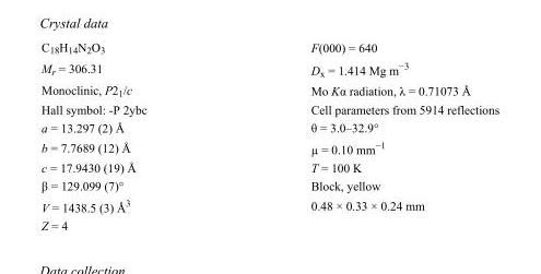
<table><tbody><tr><td>C<sub>18</sub>H<sub>14</sub>N<sub>2</sub>O<sub>3</sub></td><td>F(000) = 640</td></tr><tr><td>M<sub>r</sub> = 306.31</td><td>D<sub>x</sub> = 1.414 Mg m<sup>−3</sup></td></tr><tr><td>Monoclinic, P2<sub>1</sub>/c</td><td>Mo Kα radiation, λ = 0.71073 Å</td></tr><tr><td>Hall symbol: -P 2ybc</td><td>Cell parameters from 5914 reflections</td></tr><tr><td>a = 13.297 (2) Å</td><td>θ = 3.0–32.9°</td></tr><tr><td>b = 7.7689 (12) Å</td><td>µ = 0.10 mm<sup>−1</sup></td></tr><tr><td>c = 17.9430 (19) Å</td><td>T = 100 K</td></tr><tr><td>β = 129.099 (7)°</td><td>Block, yellow</td></tr><tr><td>V = 1438.5 (3) Å<sup>3</sup></td><td>0.48 × 0.33 × 0.24 mm</td></tr><tr><td>Z = 4</td><td></td></tr></tbody></table>